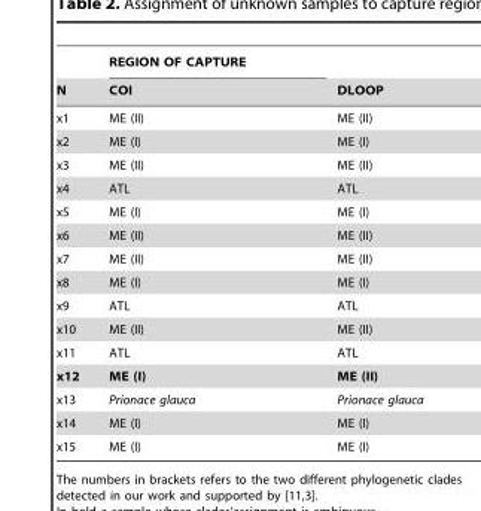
<table><thead><tr><td rowspan="2">N</td><td rowspan="2">REGION OF CAPTURE COI</td><td rowspan="2">DLOOP</td></tr><tr></tr></thead><tbody><tr><td>x1</td><td>ME (II)</td><td>ME (II)</td></tr><tr><td>x2</td><td>ME (I)</td><td>ME (I)</td></tr><tr><td>x3</td><td>ME (II)</td><td>ME (II)</td></tr><tr><td>x4</td><td>ATL</td><td>ATL</td></tr><tr><td>x5</td><td>ME (I)</td><td>ME (I)</td></tr><tr><td>x6</td><td>ME (II)</td><td>ME (II)</td></tr><tr><td>x7</td><td>ME (II)</td><td>ME (II)</td></tr><tr><td>x8</td><td>ME (I)</td><td>ME (I)</td></tr><tr><td>x9</td><td>ATL</td><td>ATL</td></tr><tr><td>x10</td><td>ME (II)</td><td>ME (II)</td></tr><tr><td>x11</td><td>ATL</td><td>ATL</td></tr><tr><td>x12</td><td>ME (I)</td><td>ME (II)</td></tr><tr><td>x13</td><td>Prionace glauca</td><td>Prionace glauca</td></tr><tr><td>x14</td><td>ME (I)</td><td>ME (I)</td></tr><tr><td>x15</td><td>ME (I)</td><td>ME (I)</td></tr></tbody></table>